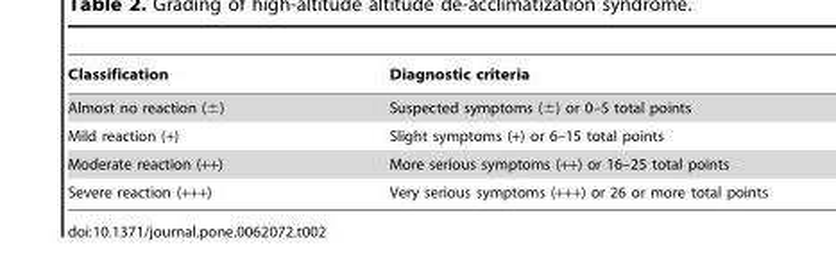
<table><thead><tr><td>Classification</td><td>Diagnostic criteria</td></tr></thead><tbody><tr><td>Almost no reaction (±)</td><td>Suspected symptoms (±) or 0–5 total points</td></tr><tr><td>Mild reaction (+)</td><td>Slight symptoms (+) or 6–15 total points</td></tr><tr><td>Moderate reaction (++)</td><td>More serious symptoms (++) or 16–25 total points</td></tr><tr><td>Severe reaction (+++)</td><td>Very serious symptoms (+++) or 26 or more total points</td></tr></tbody></table>